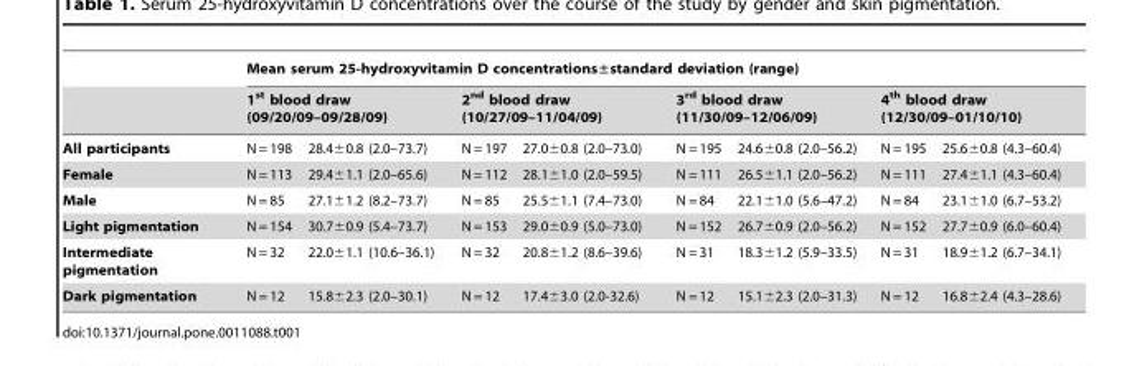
<table><thead><tr><td rowspan="3">All participants</td><td colspan="8">Mean serum 25-hydroxyvitamin D concentrations±standard deviation (range)</td></tr><tr><td colspan="2">1<sup>st</sup> blood draw (09/20/09–09/28/09)</td><td colspan="2">2<sup>nd</sup> blood draw (10/27/09–11/04/09)</td><td colspan="2">3<sup>rd</sup> blood draw (11/30/09–12/06/09)</td><td colspan="2">4<sup>th</sup> blood draw (12/30/09–01/10/10)</td></tr><tr><td>N = 198</td><td>28.4±0.8 (2.0–73.7)</td><td>N = 197</td><td>27.0±0.8 (2.0–73.0)</td><td>N = 195</td><td>24.6±0.8 (2.0–56.2)</td><td>N = 195</td><td>25.6±0.8 (4.3–60.4)</td></tr></thead><tbody><tr><td>Female</td><td>N = 113</td><td>29.4±1.1 (2.0–65.6)</td><td>N = 112</td><td>28.1±1.0 (2.0–59.5)</td><td>N = 111</td><td>26.5±1.1 (2.0–56.2)</td><td>N = 111</td><td>27.4±1.1 (4.3–60.4)</td></tr><tr><td>Male</td><td>N = 85</td><td>27.1±1.2 (8.2–73.7)</td><td>N = 85</td><td>25.5±1.1 (7.4–73.0)</td><td>N = 84</td><td>22.1±1.0 (5.6–47.2)</td><td>N = 84</td><td>23.1±1.0 (6.7–53.2)</td></tr><tr><td>Light pigmentation</td><td>N = 154</td><td>30.7±0.9 (5.4–73.7)</td><td>N = 153</td><td>29.0±0.9 (5.0–73.0)</td><td>N = 152</td><td>26.7±0.9 (2.0–56.2)</td><td>N = 152</td><td>27.7±0.9 (6.0–60.4)</td></tr><tr><td>Intermediate pigmentation</td><td>N = 32</td><td>22.0±1.1 (10.6–36.1)</td><td>N = 32</td><td>20.8±1.2 (8.6–39.6)</td><td>N = 31</td><td>18.3±1.2 (5.9–33.5)</td><td>N = 31</td><td>18.9±1.2 (6.7–34.1)</td></tr><tr><td>Dark pigmentation</td><td>N = 12</td><td>15.8±2.3 (2.0–30.1)</td><td>N = 12</td><td>17.4±3.0 (2.0-32.6)</td><td>N = 12</td><td>15.1±2.3 (2.0–31.3)</td><td>N = 12</td><td>16.8±2.4 (4.3–28.6)</td></tr></tbody></table>